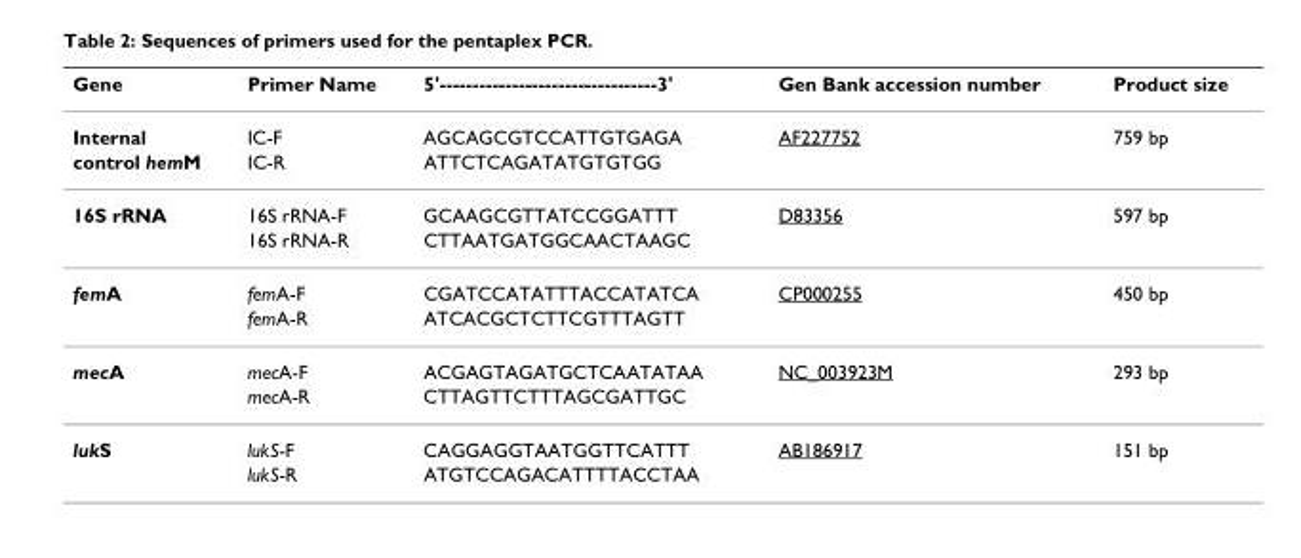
<table><thead><tr><td>Gene</td><td>Primer Name</td><td>5&#x27;---------------------------------3&#x27;</td><td>Gen Bank accession number</td><td>Product size</td></tr></thead><tbody><tr><td>Internal</td><td>IC-F</td><td>AGCAGCGTCCATTGTGAGA</td><td>AF227752</td><td>759 bp</td></tr><tr><td>control hemM</td><td>IC-R</td><td>ATTCTCAGATATGTGTGG</td><td></td><td></td></tr><tr><td rowspan="2">16S rRNA</td><td>16S rRNA-F</td><td>GCAAGCGTTATCCGGATTT</td><td>D83356</td><td>597 bp</td></tr><tr><td>16S rRNA-R</td><td>CTTAATGATGGCAACTAAGC</td><td></td><td></td></tr><tr><td rowspan="2">femA</td><td>femA-F</td><td>CGATCCATATTTACCATATCA</td><td>CP000255</td><td>450 bp</td></tr><tr><td>femA-R</td><td>ATCACGCTCTTCGTTTAGTT</td><td></td><td></td></tr><tr><td rowspan="2">mecA</td><td>mecA-F</td><td>ACGAGTAGATGCTCAATATAA</td><td>NC_003923M</td><td>293 bp</td></tr><tr><td>mecA-R</td><td>CTTAGTTCTTTAGCGATTGC</td><td></td><td></td></tr><tr><td rowspan="2">lukS</td><td>lukS-F</td><td>CAGGAGGTAATGGTTCATTT</td><td>AB186917</td><td>151 bp</td></tr><tr><td>lukS-R</td><td>ATGTCCAGACATTTTACCTAA</td><td></td><td></td></tr></tbody></table>